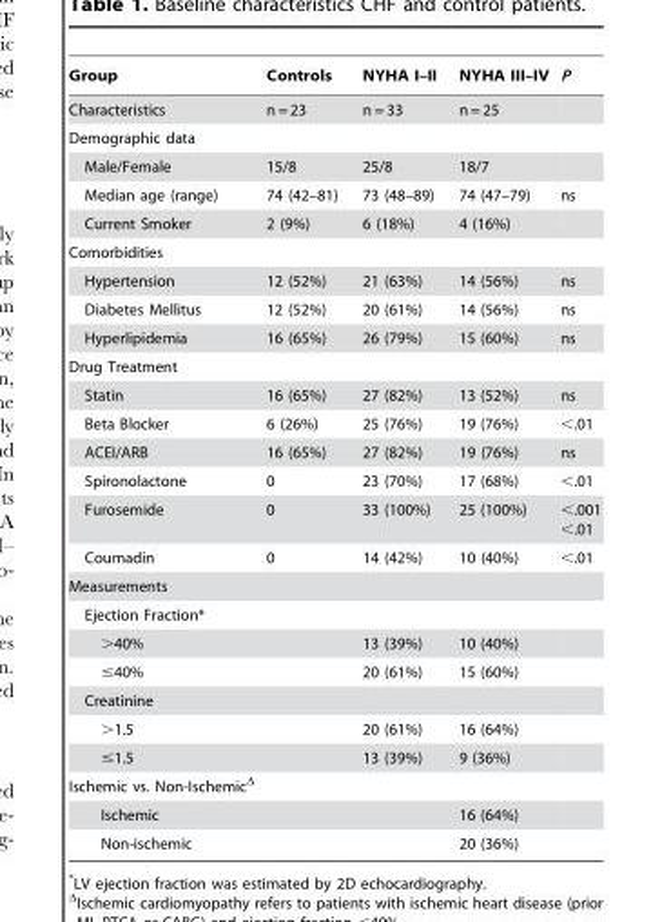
<table><thead><tr><td>Group</td><td>Controls</td><td>NYHA I–II</td><td>NYHA III–IV</td><td>P</td></tr></thead><tbody><tr><td>Characteristics</td><td>n = 23</td><td>n = 33</td><td>n = 25</td><td></td></tr><tr><td colspan="5">Demographic data</td></tr><tr><td>Male/Female</td><td>15/8</td><td>25/8</td><td>18/7</td><td></td></tr><tr><td>Median age (range)</td><td>74 (42–81)</td><td>73 (48–89)</td><td>74 (47–79)</td><td>ns</td></tr><tr><td>Current Smoker</td><td>2 (9%)</td><td>6 (18%)</td><td>4 (16%)</td><td></td></tr><tr><td colspan="5">Comorbidities</td></tr><tr><td>Hypertension</td><td>12 (52%)</td><td>21 (63%)</td><td>14 (56%)</td><td>ns</td></tr><tr><td>Diabetes Mellitus</td><td>12 (52%)</td><td>20 (61%)</td><td>14 (56%)</td><td>ns</td></tr><tr><td>Hyperlipidemia</td><td>16 (65%)</td><td>26 (79%)</td><td>15 (60%)</td><td>ns</td></tr><tr><td colspan="5">Drug Treatment</td></tr><tr><td>Statin</td><td>16 (65%)</td><td>27 (82%)</td><td>13 (52%)</td><td>ns</td></tr><tr><td>Beta Blocker</td><td>6 (26%)</td><td>25 (76%)</td><td>19 (76%)</td><td>&lt;.01</td></tr><tr><td>ACEI/ARB</td><td>16 (65%)</td><td>27 (82%)</td><td>19 (76%)</td><td>ns</td></tr><tr><td>Spironolactone</td><td>0</td><td>23 (70%)</td><td>17 (68%)</td><td>&lt;.01</td></tr><tr><td>Furosemide</td><td>0</td><td>33 (100%)</td><td>25 (100%)</td><td>&lt;.001 &lt;.01</td></tr><tr><td>Coumadin</td><td>0</td><td>14 (42%)</td><td>10 (40%)</td><td>&lt;.01</td></tr><tr><td colspan="5">Measurements</td></tr><tr><td colspan="5">Ejection Fraction*</td></tr><tr><td>&gt;40%</td><td></td><td>13 (39%)</td><td>10 (40%)</td><td></td></tr><tr><td>≤40%</td><td></td><td>20 (61%)</td><td>15 (60%)</td><td></td></tr><tr><td colspan="5">Creatinine</td></tr><tr><td>&gt;1.5</td><td></td><td>20 (61%)</td><td>16 (64%)</td><td></td></tr><tr><td>≤1.5</td><td></td><td>13 (39%)</td><td>9 (36%)</td><td></td></tr><tr><td colspan="5">Ischemic vs. Non-IschemicΔ</td></tr><tr><td>Ischemic</td><td></td><td></td><td>16 (64%)</td><td></td></tr><tr><td>Non-ischemic</td><td></td><td></td><td>20 (36%)</td><td></td></tr></tbody></table>